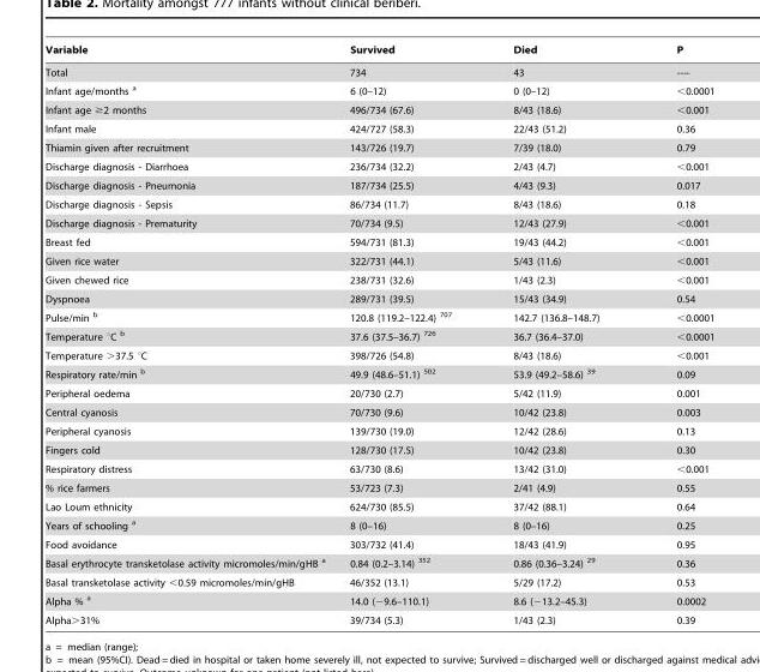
<table><thead><tr><td>Variable</td><td>Survived</td><td>Died</td><td>P</td></tr></thead><tbody><tr><td>Total</td><td>734</td><td>43</td><td>----</td></tr><tr><td>Infant age/months a</td><td>6 (0–12)</td><td>0 (0–12)</td><td>&lt;0.0001</td></tr><tr><td>Infant age ≥2 months</td><td>496/734 (67.6)</td><td>8/43 (18.6)</td><td>&lt;0.001</td></tr><tr><td>Infant male</td><td>424/727 (58.3)</td><td>22/43 (51.2)</td><td>0.36</td></tr><tr><td>Thiamin given after recruitment</td><td>143/726 (19.7)</td><td>7/39 (18.0)</td><td>0.79</td></tr><tr><td>Discharge diagnosis - Diarrhoea</td><td>236/734 (32.2)</td><td>2/43 (4.7)</td><td>&lt;0.001</td></tr><tr><td>Discharge diagnosis - Pneumonia</td><td>187/734 (25.5)</td><td>4/43 (9.3)</td><td>0.017</td></tr><tr><td>Discharge diagnosis - Sepsis</td><td>86/734 (11.7)</td><td>8/43 (18.6)</td><td>0.18</td></tr><tr><td>Discharge diagnosis - Prematurity</td><td>70/734 (9.5)</td><td>12/43 (27.9)</td><td>&lt;0.001</td></tr><tr><td>Breast fed</td><td>594/731 (81.3)</td><td>19/43 (44.2)</td><td>&lt;0.001</td></tr><tr><td>Given rice water</td><td>322/731 (44.1)</td><td>5/43 (11.6)</td><td>&lt;0.001</td></tr><tr><td>Given chewed rice</td><td>238/731 (32.6)</td><td>1/43 (2.3)</td><td>&lt;0.001</td></tr><tr><td>Dyspnoea</td><td>289/731 (39.5)</td><td>15/43 (34.9)</td><td>0.54</td></tr><tr><td>Pulse/min b</td><td>120.8 (119.2–122.4) <sup>707</sup></td><td>142.7 (136.8–148.7)</td><td>&lt;0.0001</td></tr><tr><td>Temperature °C b</td><td>37.6 (37.5–36.7) <sup>726</sup></td><td>36.7 (36.4–37.0)</td><td>&lt;0.0001</td></tr><tr><td>Temperature &gt;37.5 °C</td><td>398/726 (54.8)</td><td>8/43 (18.6)</td><td>&lt;0.001</td></tr><tr><td>Respiratory rate/min b</td><td>49.9 (48.6–51.1) <sup>502</sup></td><td>53.9 (49.2–58.6) <sup>39</sup></td><td>0.09</td></tr><tr><td>Peripheral oedema</td><td>20/730 (2.7)</td><td>5/42 (11.9)</td><td>0.001</td></tr><tr><td>Central cyanosis</td><td>70/730 (9.6)</td><td>10/42 (23.8)</td><td>0.003</td></tr><tr><td>Peripheral cyanosis</td><td>139/730 (19.0)</td><td>12/42 (28.6)</td><td>0.13</td></tr><tr><td>Fingers cold</td><td>128/730 (17.5)</td><td>10/42 (23.8)</td><td>0.30</td></tr><tr><td>Respiratory distress</td><td>63/730 (8.6)</td><td>13/42 (31.0)</td><td>&lt;0.001</td></tr><tr><td>% rice farmers</td><td>53/723 (7.3)</td><td>2/41 (4.9)</td><td>0.55</td></tr><tr><td>Lao Loum ethnicity</td><td>624/730 (85.5)</td><td>37/42 (88.1)</td><td>0.64</td></tr><tr><td>Years of schooling a</td><td>8 (0–16)</td><td>8 (0–16)</td><td>0.25</td></tr><tr><td>Food avoidance</td><td>303/732 (41.4)</td><td>18/43 (41.9)</td><td>0.95</td></tr><tr><td>Basal erythrocyte transketolase activity micromoles/min/gHB a</td><td>0.84 (0.2–3.14) <sup>352</sup></td><td>0.86 (0.36–3.24) <sup>29</sup></td><td>0.36</td></tr><tr><td>Basal transketolase activity &lt;0.59 micromoles/min/gHB</td><td>46/352 (13.1)</td><td>5/29 (17.2)</td><td>0.53</td></tr><tr><td>Alpha % a</td><td>14.0 (−9.6–110.1)</td><td>8.6 (−13.2–45.3)</td><td>0.0002</td></tr><tr><td>Alpha&gt;31%</td><td>39/734 (5.3)</td><td>1/43 (2.3)</td><td>0.39</td></tr></tbody></table>